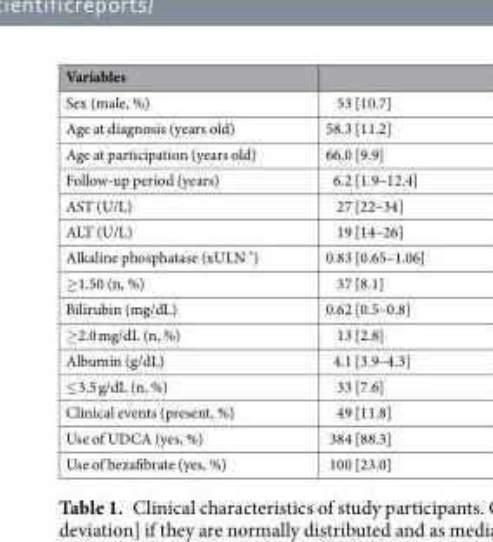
<table><thead><tr><td>Variables</td><td></td></tr></thead><tbody><tr><td>Sex (male, %)</td><td>53 [10.7]</td></tr><tr><td>Age at diagnosis (years old)</td><td>58.3 [11.2]</td></tr><tr><td>Age at participation (years old)</td><td>66.0 [9.9]</td></tr><tr><td>Follow-up period (years)</td><td>6.2 [1.9–12.4]</td></tr><tr><td>AST (U/L)</td><td>27 [22–34]</td></tr><tr><td>ALT (U/L)</td><td>19 [14–26]</td></tr><tr><td>Alkaline phosphatase (xULN *)</td><td>0.83 [0.65–1.06]</td></tr><tr><td>≥1.50 (n, %)</td><td>37 [8.1]</td></tr><tr><td>Bilirubin (mg/dL)</td><td>0.62 [0.5–0.8]</td></tr><tr><td>≥2.0 mg/dL (n, %)</td><td>13 [2.8]</td></tr><tr><td>Albumin (g/dL)</td><td>4.1 [3.9–4.3]</td></tr><tr><td>≤3.5 g/dL (n, %)</td><td>33 [7.6]</td></tr><tr><td>Clinical events (present, %)</td><td>49 [11.8]</td></tr><tr><td>Use of UDCA (yes, %)</td><td>384 [88.3]</td></tr><tr><td>Use of bezafibrate (yes, %)</td><td>100 [23.0]</td></tr></tbody></table>